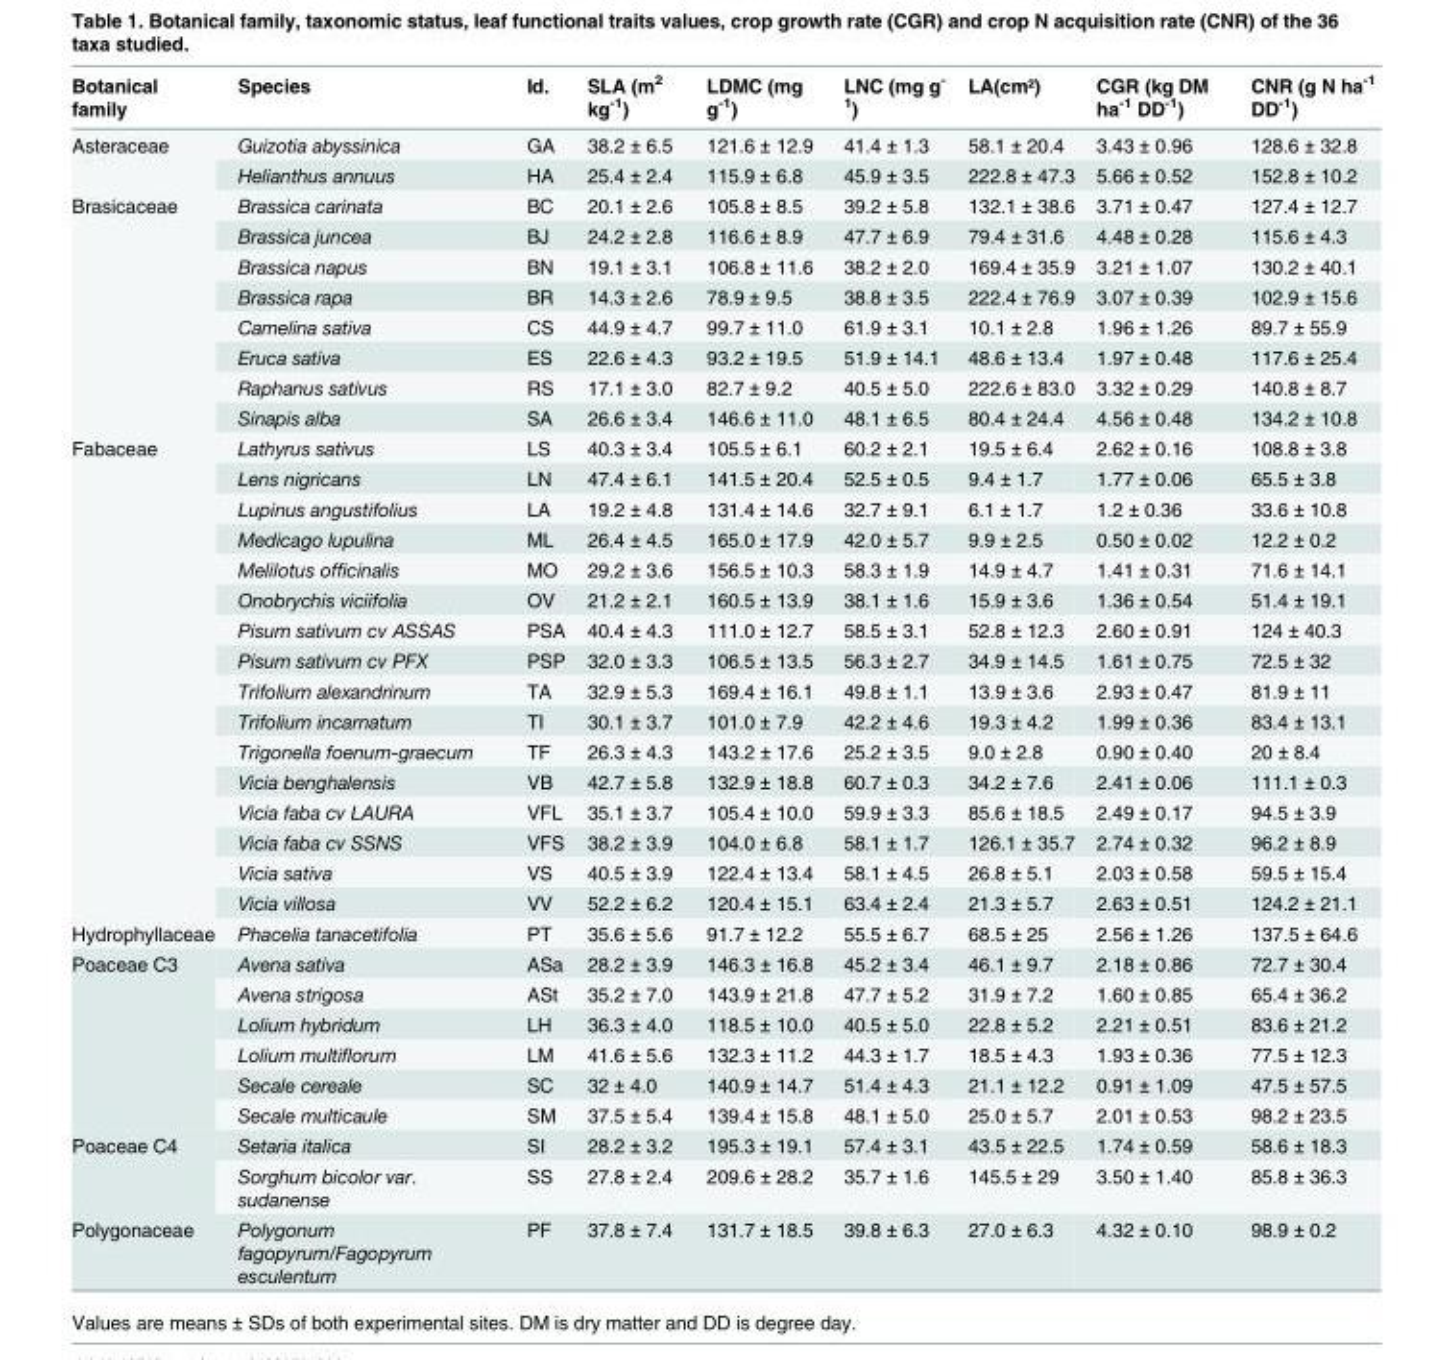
<table><thead><tr><td>Botanical family</td><td>Species</td><td>Id.</td><td>SLA (m<sup>2</sup> kg<sup>-1</sup>)</td><td>LDMC (mg g<sup>-1</sup>)</td><td>LNC (mg g<sup>- 1</sup>)</td><td>LA(cm²)</td><td>CGR (kg DM ha<sup>-1</sup> DD<sup>-1</sup>)</td><td>CNR (g N ha<sup>-1</sup> DD<sup>-1</sup>)</td></tr></thead><tbody><tr><td rowspan="2">Asteraceae</td><td>Guizotia abyssinica</td><td>GA</td><td>38.2 ± 6.5</td><td>121.6 ± 12.9</td><td>41.4 ± 1.3</td><td>58.1 ± 20.4</td><td>3.43 ± 0.96</td><td>128.6 ± 32.8</td></tr><tr><td>Helianthus annuus</td><td>HA</td><td>25.4 ± 2.4</td><td>115.9 ± 6.8</td><td>45.9 ± 3.5</td><td>222.8 ± 47.3</td><td>5.66 ± 0.52</td><td>152.8 ± 10.2</td></tr><tr><td rowspan="8">Brasicaceae</td><td>Brassica carinata</td><td>BC</td><td>20.1 ± 2.6</td><td>105.8 ± 8.5</td><td>39.2 ± 5.8</td><td>132.1 ± 38.6</td><td>3.71 ± 0.47</td><td>127.4 ± 12.7</td></tr><tr><td>Brassica juncea</td><td>BJ</td><td>24.2 ± 2.8</td><td>116.6 ± 8.9</td><td>47.7 ± 6.9</td><td>79.4 ± 31.6</td><td>4.48 ± 0.28</td><td>115.6 ± 4.3</td></tr><tr><td>Brassica napus</td><td>BN</td><td>19.1 ± 3.1</td><td>106.8 ± 11.6</td><td>38.2 ± 2.0</td><td>169.4 ± 35.9</td><td>3.21 ± 1.07</td><td>130.2 ± 40.1</td></tr><tr><td>Brassica rapa</td><td>BR</td><td>14.3 ± 2.6</td><td>78.9 ± 9.5</td><td>38.8 ± 3.5</td><td>222.4 ± 76.9</td><td>3.07 ± 0.39</td><td>102.9 ± 15.6</td></tr><tr><td>Camelina sativa</td><td>CS</td><td>44.9 ± 4.7</td><td>99.7 ± 11.0</td><td>61.9 ± 3.1</td><td>10.1 ± 2.8</td><td>1.96 ± 1.26</td><td>89.7 ± 55.9</td></tr><tr><td>Eruca sativa</td><td>ES</td><td>22.6 ± 4.3</td><td>93.2 ± 19.5</td><td>51.9 ± 14.1</td><td>48.6 ± 13.4</td><td>1.97 ± 0.48</td><td>117.6 ± 25.4</td></tr><tr><td>Raphanus sativus</td><td>RS</td><td>17.1 ± 3.0</td><td>82.7 ± 9.2</td><td>40.5 ± 5.0</td><td>222.6 ± 83.0</td><td>3.32 ± 0.29</td><td>140.8 ± 8.7</td></tr><tr><td>Sinapis alba</td><td>SA</td><td>26.6 ± 3.4</td><td>146.6 ± 11.0</td><td>48.1 ± 6.5</td><td>80.4 ± 24.4</td><td>4.56 ± 0.48</td><td>134.2 ± 10.8</td></tr><tr><td rowspan="16">Fabaceae</td><td>Lathyrus sativus</td><td>LS</td><td>40.3 ± 3.4</td><td>105.5 ± 6.1</td><td>60.2 ± 2.1</td><td>19.5 ± 6.4</td><td>2.62 ± 0.16</td><td>108.8 ± 3.8</td></tr><tr><td>Lens nigricans</td><td>LN</td><td>47.4 ± 6.1</td><td>141.5 ± 20.4</td><td>52.5 ± 0.5</td><td>9.4 ± 1.7</td><td>1.77 ± 0.06</td><td>65.5 ± 3.8</td></tr><tr><td>Lupinus angustifolius</td><td>LA</td><td>19.2 ± 4.8</td><td>131.4 ± 14.6</td><td>32.7 ± 9.1</td><td>6.1 ± 1.7</td><td>1.2 ± 0.36</td><td>33.6 ± 10.8</td></tr><tr><td>Medicago lupulina</td><td>ML</td><td>26.4 ± 4.5</td><td>165.0 ± 17.9</td><td>42.0 ± 5.7</td><td>9.9 ± 2.5</td><td>0.50 ± 0.02</td><td>12.2 ± 0.2</td></tr><tr><td>Melilotus officinalis</td><td>MO</td><td>29.2 ± 3.6</td><td>156.5 ± 10.3</td><td>58.3 ± 1.9</td><td>14.9 ± 4.7</td><td>1.41 ± 0.31</td><td>71.6 ± 14.1</td></tr><tr><td>Onobrychis viciifolia</td><td>OV</td><td>21.2 ± 2.1</td><td>160.5 ± 13.9</td><td>38.1 ± 1.6</td><td>15.9 ± 3.6</td><td>1.36 ± 0.54</td><td>51.4 ± 19.1</td></tr><tr><td>Pisum sativum cv ASSAS</td><td>PSA</td><td>40.4 ± 4.3</td><td>111.0 ± 12.7</td><td>58.5 ± 3.1</td><td>52.8 ± 12.3</td><td>2.60 ± 0.91</td><td>124 ± 40.3</td></tr><tr><td>Pisum sativum cv PFX</td><td>PSP</td><td>32.0 ± 3.3</td><td>106.5 ± 13.5</td><td>56.3 ± 2.7</td><td>34.9 ± 14.5</td><td>1.61 ± 0.75</td><td>72.5 ± 32</td></tr><tr><td>Trifolium alexandrinum</td><td>TA</td><td>32.9 ± 5.3</td><td>169.4 ± 16.1</td><td>49.8 ± 1.1</td><td>13.9 ± 3.6</td><td>2.93 ± 0.47</td><td>81.9 ± 11</td></tr><tr><td>Trifolium incarnatum</td><td>TI</td><td>30.1 ± 3.7</td><td>101.0 ± 7.9</td><td>42.2 ± 4.6</td><td>19.3 ± 4.2</td><td>1.99 ± 0.36</td><td>83.4 ± 13.1</td></tr><tr><td>Trigonella foenum-graecum</td><td>TF</td><td>26.3 ± 4.3</td><td>143.2 ± 17.6</td><td>25.2 ± 3.5</td><td>9.0 ± 2.8</td><td>0.90 ± 0.40</td><td>20 ± 8.4</td></tr><tr><td>Vicia benghalensis</td><td>VB</td><td>42.7 ± 5.8</td><td>132.9 ± 18.8</td><td>60.7 ± 0.3</td><td>34.2 ± 7.6</td><td>2.41 ± 0.06</td><td>111.1 ± 0.3</td></tr><tr><td>Vicia faba cv LAURA</td><td>VFL</td><td>35.1 ± 3.7</td><td>105.4 ± 10.0</td><td>59.9 ± 3.3</td><td>85.6 ± 18.5</td><td>2.49 ± 0.17</td><td>94.5 ± 3.9</td></tr><tr><td>Vicia faba cv SSNS</td><td>VFS</td><td>38.2 ± 3.9</td><td>104.0 ± 6.8</td><td>58.1 ± 1.7</td><td>126.1 ± 35.7</td><td>2.74 ± 0.32</td><td>96.2 ± 8.9</td></tr><tr><td>Vicia sativa</td><td>VS</td><td>40.5 ± 3.9</td><td>122.4 ± 13.4</td><td>58.1 ± 4.5</td><td>26.8 ± 5.1</td><td>2.03 ± 0.58</td><td>59.5 ± 15.4</td></tr><tr><td>Vicia villosa</td><td>VV</td><td>52.2 ± 6.2</td><td>120.4 ± 15.1</td><td>63.4 ± 2.4</td><td>21.3 ± 5.7</td><td>2.63 ± 0.51</td><td>124.2 ± 21.1</td></tr><tr><td>Hydrophyllaceae</td><td>Phacelia tanacetifolia</td><td>PT</td><td>35.6 ± 5.6</td><td>91.7 ± 12.2</td><td>55.5 ± 6.7</td><td>68.5 ± 25</td><td>2.56 ± 1.26</td><td>137.5 ± 64.6</td></tr><tr><td rowspan="6">Poaceae C3</td><td>Avena sativa</td><td>ASa</td><td>28.2 ± 3.9</td><td>146.3 ± 16.8</td><td>45.2 ± 3.4</td><td>46.1 ± 9.7</td><td>2.18 ± 0.86</td><td>72.7 ± 30.4</td></tr><tr><td>Avena strigosa</td><td>ASt</td><td>35.2 ± 7.0</td><td>143.9 ± 21.8</td><td>47.7 ± 5.2</td><td>31.9 ± 7.2</td><td>1.60 ± 0.85</td><td>65.4 ± 36.2</td></tr><tr><td>Lolium hybridum</td><td>LH</td><td>36.3 ± 4.0</td><td>118.5 ± 10.0</td><td>40.5 ± 5.0</td><td>22.8 ± 5.2</td><td>2.21 ± 0.51</td><td>83.6 ± 21.2</td></tr><tr><td>Lolium multiflorum</td><td>LM</td><td>41.6 ± 5.6</td><td>132.3 ± 11.2</td><td>44.3 ± 1.7</td><td>18.5 ± 4.3</td><td>1.93 ± 0.36</td><td>77.5 ± 12.3</td></tr><tr><td>Secale cereale</td><td>SC</td><td>32 ± 4.0</td><td>140.9 ± 14.7</td><td>51.4 ± 4.3</td><td>21.1 ± 12.2</td><td>0.91 ± 1.09</td><td>47.5 ± 57.5</td></tr><tr><td>Secale multicaule</td><td>SM</td><td>37.5 ± 5.4</td><td>139.4 ± 15.8</td><td>48.1 ± 5.0</td><td>25.0 ± 5.7</td><td>2.01 ± 0.53</td><td>98.2 ± 23.5</td></tr><tr><td rowspan="2">Poaceae C4</td><td>Setaria italica</td><td>SI</td><td>28.2 ± 3.2</td><td>195.3 ± 19.1</td><td>57.4 ± 3.1</td><td>43.5 ± 22.5</td><td>1.74 ± 0.59</td><td>58.6 ± 18.3</td></tr><tr><td>Sorghum bicolor var. sudanense</td><td>SS</td><td>27.8 ± 2.4</td><td>209.6 ± 28.2</td><td>35.7 ± 1.6</td><td>145.5 ± 29</td><td>3.50 ± 1.40</td><td>85.8 ± 36.3</td></tr><tr><td>Polygonaceae</td><td>Polygonum fagopyrum/Fagopyrum esculentum</td><td>PF</td><td>37.8 ± 7.4</td><td>131.7 ± 18.5</td><td>39.8 ± 6.3</td><td>27.0 ± 6.3</td><td>4.32 ± 0.10</td><td>98.9 ± 0.2</td></tr></tbody></table>